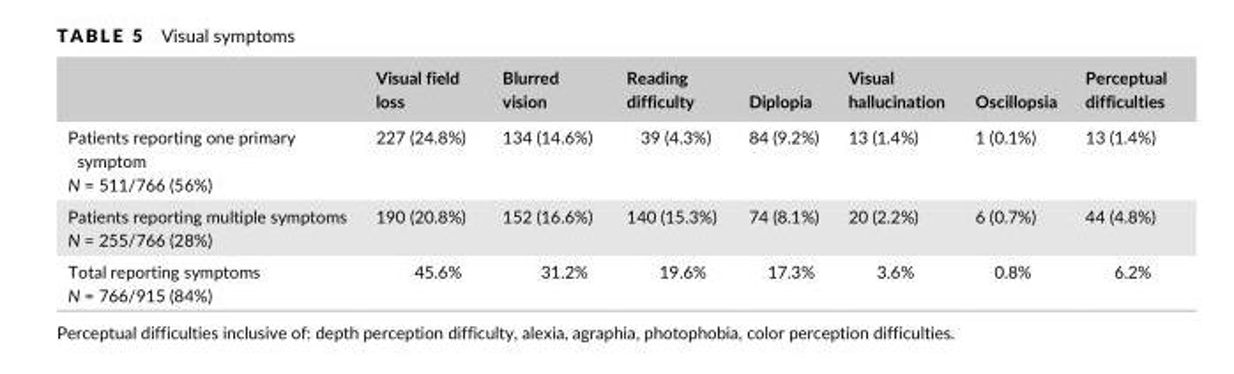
<table><thead><tr><td></td><td>Visual field loss</td><td>Blurred vision</td><td>Reading difficulty</td><td>Diplopia</td><td>Visual hallucination</td><td>Oscillopsia</td><td>Perceptual difficulties</td></tr></thead><tbody><tr><td>Patients reporting one primary symptom N = 511/766 (56%)</td><td>227 (24.8%)</td><td>134 (14.6%)</td><td>39 (4.3%)</td><td>84 (9.2%)</td><td>13 (1.4%)</td><td>1 (0.1%)</td><td>13 (1.4%)</td></tr><tr><td>Patients reporting multiple symptoms N = 255/766 (28%)</td><td>190 (20.8%)</td><td>152 (16.6%)</td><td>140 (15.3%)</td><td>74 (8.1%)</td><td>20 (2.2%)</td><td>6 (0.7%)</td><td>44 (4.8%)</td></tr><tr><td>Total reporting symptoms N = 766/915 (84%)</td><td>45.6%</td><td>31.2%</td><td>19.6%</td><td>17.3%</td><td>3.6%</td><td>0.8%</td><td>6.2%</td></tr></tbody></table>